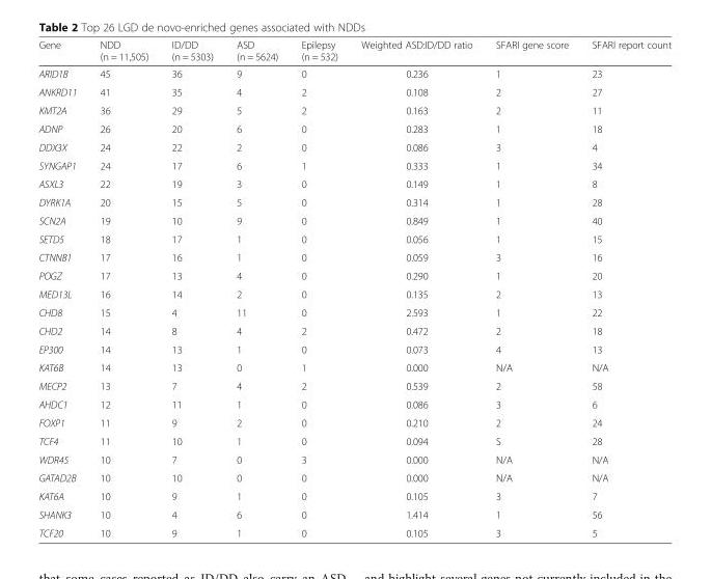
<table><thead><tr><td>Gene</td><td>NDD (n = 11,505)</td><td>ID/DD (n = 5303)</td><td>ASD (n = 5624)</td><td>Epilepsy (n = 532)</td><td>Weighted ASD:ID/DD ratio</td><td>SFARI gene score</td><td>SFARI report count</td></tr></thead><tbody><tr><td>ARID1B</td><td>45</td><td>36</td><td>9</td><td>0</td><td>0.236</td><td>1</td><td>23</td></tr><tr><td>ANKRD11</td><td>41</td><td>35</td><td>4</td><td>2</td><td>0.108</td><td>2</td><td>27</td></tr><tr><td>KMT2A</td><td>36</td><td>29</td><td>5</td><td>2</td><td>0.163</td><td>2</td><td>11</td></tr><tr><td>ADNP</td><td>26</td><td>20</td><td>6</td><td>0</td><td>0.283</td><td>1</td><td>18</td></tr><tr><td>DDX3X</td><td>24</td><td>22</td><td>2</td><td>0</td><td>0.086</td><td>3</td><td>4</td></tr><tr><td>SYNGAP1</td><td>24</td><td>17</td><td>6</td><td>1</td><td>0.333</td><td>1</td><td>34</td></tr><tr><td>ASXL3</td><td>22</td><td>19</td><td>3</td><td>0</td><td>0.149</td><td>1</td><td>8</td></tr><tr><td>DYRK1A</td><td>20</td><td>15</td><td>5</td><td>0</td><td>0.314</td><td>1</td><td>28</td></tr><tr><td>SCN2A</td><td>19</td><td>10</td><td>9</td><td>0</td><td>0.849</td><td>1</td><td>40</td></tr><tr><td>SETD5</td><td>18</td><td>17</td><td>1</td><td>0</td><td>0.056</td><td>1</td><td>15</td></tr><tr><td>CTNNB1</td><td>17</td><td>16</td><td>1</td><td>0</td><td>0.059</td><td>3</td><td>16</td></tr><tr><td>POGZ</td><td>17</td><td>13</td><td>4</td><td>0</td><td>0.290</td><td>1</td><td>20</td></tr><tr><td>MED13L</td><td>16</td><td>14</td><td>2</td><td>0</td><td>0.135</td><td>2</td><td>13</td></tr><tr><td>CHD8</td><td>15</td><td>4</td><td>11</td><td>0</td><td>2.593</td><td>1</td><td>22</td></tr><tr><td>CHD2</td><td>14</td><td>8</td><td>4</td><td>2</td><td>0.472</td><td>2</td><td>18</td></tr><tr><td>EP300</td><td>14</td><td>13</td><td>1</td><td>0</td><td>0.073</td><td>4</td><td>13</td></tr><tr><td>KAT6B</td><td>14</td><td>13</td><td>0</td><td>1</td><td>0.000</td><td>N/A</td><td>N/A</td></tr><tr><td>MECP2</td><td>13</td><td>7</td><td>4</td><td>2</td><td>0.539</td><td>2</td><td>58</td></tr><tr><td>AHDC1</td><td>12</td><td>11</td><td>1</td><td>0</td><td>0.086</td><td>3</td><td>6</td></tr><tr><td>FOXP1</td><td>11</td><td>9</td><td>2</td><td>0</td><td>0.210</td><td>2</td><td>24</td></tr><tr><td>TCF4</td><td>11</td><td>10</td><td>1</td><td>0</td><td>0.094</td><td>S</td><td>28</td></tr><tr><td>WDR45</td><td>10</td><td>7</td><td>0</td><td>3</td><td>0.000</td><td>N/A</td><td>N/A</td></tr><tr><td>GATAD2B</td><td>10</td><td>10</td><td>0</td><td>0</td><td>0.000</td><td>N/A</td><td>N/A</td></tr><tr><td>KAT6A</td><td>10</td><td>9</td><td>1</td><td>0</td><td>0.105</td><td>3</td><td>7</td></tr><tr><td>SHANK3</td><td>10</td><td>4</td><td>6</td><td>0</td><td>1.414</td><td>1</td><td>56</td></tr><tr><td>TCF20</td><td>10</td><td>9</td><td>1</td><td>0</td><td>0.105</td><td>3</td><td>5</td></tr></tbody></table>